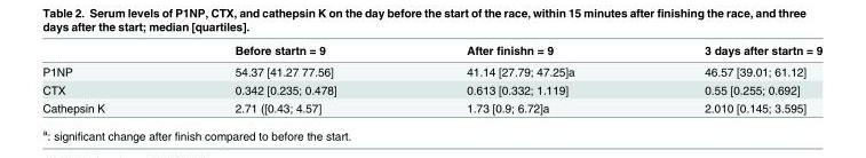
<table><thead><tr><td></td><td>Before startn = 9</td><td>After finishn = 9</td><td>3 days after startn = 9</td></tr></thead><tbody><tr><td>P1NP</td><td>54.37 [41.27 77.56]</td><td>41.14 [27.79; 47.25]<sup>a</sup></td><td>46.57 [39.01; 61.12]</td></tr><tr><td>CTX</td><td>0.342 [0.235; 0.478]</td><td>0.613 [0.332; 1.119]</td><td>0.55 [0.255; 0.692]</td></tr><tr><td>Cathepsin K</td><td>2.71 ([0.43; 4.57]</td><td>1.73 [0.9; 6.72]<sup>a</sup></td><td>2.010 [0.145; 3.595]</td></tr></tbody></table>